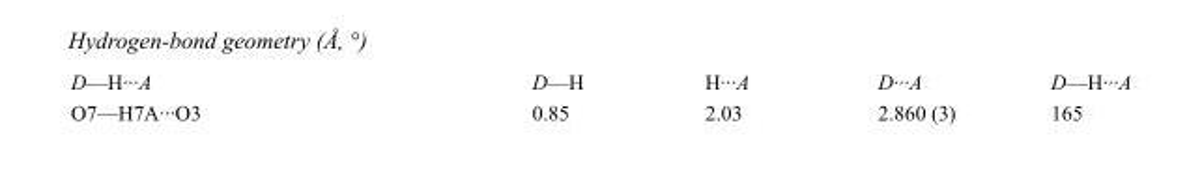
<table><tbody><tr><td>D—H···A</td><td>D—H</td><td>H···A</td><td>D···A</td><td>D—H···A</td></tr><tr><td>O7—H7A···O3</td><td>0.85</td><td>2.03</td><td>2.860 (3)</td><td>165</td></tr></tbody></table>